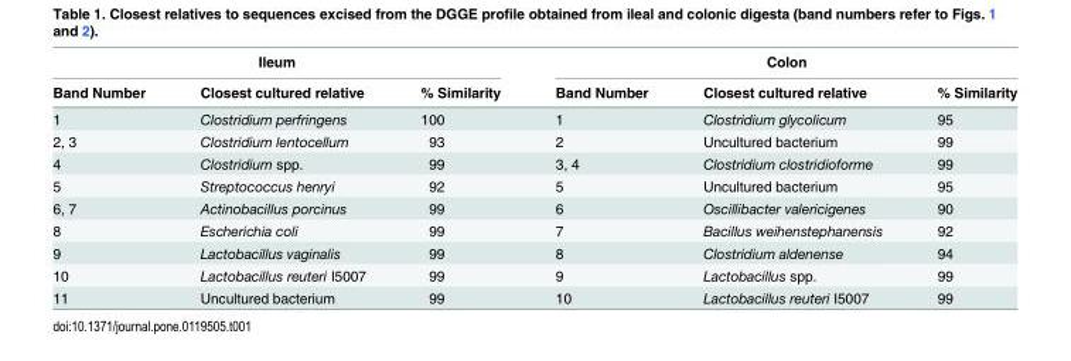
<table><thead><tr><td colspan="3">Ileum</td><td colspan="3">Colon</td></tr><tr><td>Band Number</td><td>Closest cultured relative</td><td>% Similarity</td><td>Band Number</td><td>Closest cultured relative</td><td>% Similarity</td></tr></thead><tbody><tr><td>1</td><td>Clostridium perfringens</td><td>100</td><td>1</td><td>Clostridium glycolicum</td><td>95</td></tr><tr><td>2, 3</td><td>Clostridium lentocellum</td><td>93</td><td>2</td><td>Uncultured bacterium</td><td>99</td></tr><tr><td>4</td><td>Clostridium spp.</td><td>99</td><td>3, 4</td><td>Clostridium clostridioforme</td><td>99</td></tr><tr><td>5</td><td>Streptococcus henryi</td><td>92</td><td>5</td><td>Uncultured bacterium</td><td>95</td></tr><tr><td>6, 7</td><td>Actinobacillus porcinus</td><td>99</td><td>6</td><td>Oscillibacter valericigenes</td><td>90</td></tr><tr><td>8</td><td>Escherichia coli</td><td>99</td><td>7</td><td>Bacillus weihenstephanensis</td><td>92</td></tr><tr><td>9</td><td>Lactobacillus vaginalis</td><td>99</td><td>8</td><td>Clostridium aldenense</td><td>94</td></tr><tr><td>10</td><td>Lactobacillus reuteri I5007</td><td>99</td><td>9</td><td>Lactobacillus spp.</td><td>99</td></tr><tr><td>11</td><td>Uncultured bacterium</td><td>99</td><td>10</td><td>Lactobacillus reuteri I5007</td><td>99</td></tr></tbody></table>